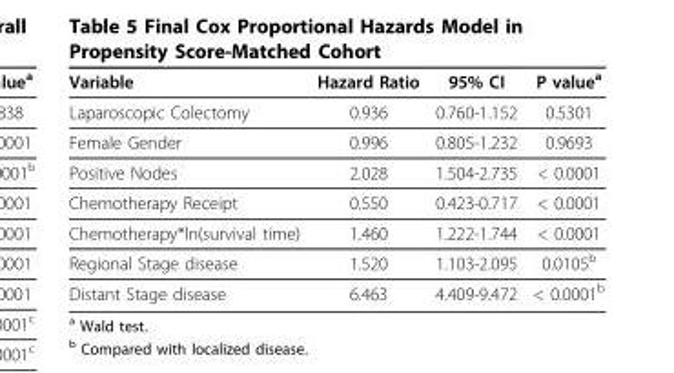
<table><thead><tr><td>Variable</td><td>Hazard Ratio</td><td>95% CI</td><td>P value<sup>a</sup></td></tr></thead><tbody><tr><td>Laparoscopic Colectomy</td><td>0.936</td><td>0.760-1.152</td><td>0.5301</td></tr><tr><td>Female Gender</td><td>0.996</td><td>0.805-1.232</td><td>0.9693</td></tr><tr><td>Positive Nodes</td><td>2.028</td><td>1.504-2.735</td><td>&lt; 0.0001</td></tr><tr><td>Chemotherapy Receipt</td><td>0.550</td><td>0.423-0.717</td><td>&lt; 0.0001</td></tr><tr><td>Chemotherapy*ln(survival time)</td><td>1.460</td><td>1.222-1.744</td><td>&lt; 0.0001</td></tr><tr><td>Regional Stage disease</td><td>1.520</td><td>1.103-2.095</td><td>0.0105<sup>b</sup></td></tr><tr><td>Distant Stage disease</td><td>6.463</td><td>4.409-9.472</td><td>&lt; 0.0001<sup>b</sup></td></tr></tbody></table>